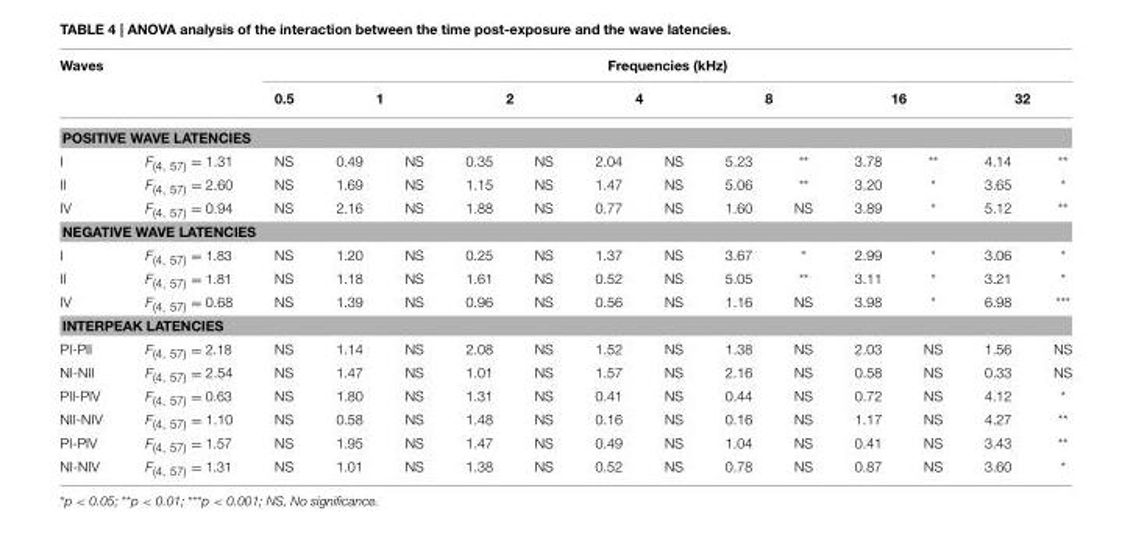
<table><thead><tr><td rowspan="2">Waves</td><td rowspan="2"></td><td colspan="13">Frequencies (kHz)</td></tr><tr><td>0.5</td><td colspan="2">1</td><td colspan="2">2</td><td colspan="2">4</td><td colspan="2">8</td><td colspan="2">16</td><td colspan="2">32</td></tr><tr><td colspan="15">POSITIVE WAVE LATENCIES</td></tr><tr><td>I</td><td>F<sub>(4, 57)</sub> = 1.31</td><td>NS</td><td>0.49</td><td>NS</td><td>0.35</td><td>NS</td><td>2.04</td><td>NS</td><td>5.23</td><td>**</td><td>3.78</td><td>**</td><td>4.14</td><td>**</td></tr></thead><tbody><tr><td>II</td><td>F<sub>(4, 57)</sub> = 2.60</td><td>NS</td><td>1.69</td><td>NS</td><td>1.15</td><td>NS</td><td>1.47</td><td>NS</td><td>5.06</td><td>**</td><td>3.20</td><td>*</td><td>3.65</td><td>*</td></tr><tr><td>IV</td><td>F<sub>(4, 57)</sub> = 0.94</td><td>NS</td><td>2.16</td><td>NS</td><td>1.88</td><td>NS</td><td>0.77</td><td>NS</td><td>1.60</td><td>NS</td><td>3.89</td><td>*</td><td>5.12</td><td>**</td></tr><tr><td colspan="15">NEGATIVE WAVE LATENCIES</td></tr><tr><td>I</td><td>F<sub>(4, 57)</sub> = 1.83</td><td>NS</td><td>1.20</td><td>NS</td><td>0.25</td><td>NS</td><td>1.37</td><td>NS</td><td>3.67</td><td>*</td><td>2.99</td><td>*</td><td>3.06</td><td>*</td></tr><tr><td>II</td><td>F<sub>(4, 57)</sub> = 1.81</td><td>NS</td><td>1.18</td><td>NS</td><td>1.61</td><td>NS</td><td>0.52</td><td>NS</td><td>5.05</td><td>**</td><td>3.11</td><td>*</td><td>3.21</td><td>*</td></tr><tr><td>IV</td><td>F<sub>(4, 57)</sub> = 0.68</td><td>NS</td><td>1.39</td><td>NS</td><td>0.96</td><td>NS</td><td>0.56</td><td>NS</td><td>1.16</td><td>NS</td><td>3.98</td><td>*</td><td>6.98</td><td>***</td></tr><tr><td colspan="15">INTERPEAK LATENCIES</td></tr><tr><td>PI-PII</td><td>F<sub>(4, 57)</sub> = 2.18</td><td>NS</td><td>1.14</td><td>NS</td><td>2.08</td><td>NS</td><td>1.52</td><td>NS</td><td>1.38</td><td>NS</td><td>2.03</td><td>NS</td><td>1.56</td><td>NS</td></tr><tr><td>NI-NII</td><td>F<sub>(4, 57)</sub> = 2.54</td><td>NS</td><td>1.47</td><td>NS</td><td>1.01</td><td>NS</td><td>1.57</td><td>NS</td><td>2.16</td><td>NS</td><td>0.58</td><td>NS</td><td>0.33</td><td>NS</td></tr><tr><td>PII-PIV</td><td>F<sub>(4, 57)</sub> = 0.63</td><td>NS</td><td>1.80</td><td>NS</td><td>1.31</td><td>NS</td><td>0.41</td><td>NS</td><td>0.44</td><td>NS</td><td>0.72</td><td>NS</td><td>4.12</td><td>*</td></tr><tr><td>NII-NIV</td><td>F<sub>(4, 57)</sub> = 1.10</td><td>NS</td><td>0.58</td><td>NS</td><td>1.48</td><td>NS</td><td>0.16</td><td>NS</td><td>0.16</td><td>NS</td><td>1.17</td><td>NS</td><td>4.27</td><td>**</td></tr><tr><td>PI-PIV</td><td>F<sub>(4, 57)</sub> = 1.57</td><td>NS</td><td>1.95</td><td>NS</td><td>1.47</td><td>NS</td><td>0.49</td><td>NS</td><td>1.04</td><td>NS</td><td>0.41</td><td>NS</td><td>3.43</td><td>**</td></tr><tr><td>NI-NIV</td><td>F<sub>(4, 57)</sub> = 1.31</td><td>NS</td><td>1.01</td><td>NS</td><td>1.38</td><td>NS</td><td>0.52</td><td>NS</td><td>0.78</td><td>NS</td><td>0.87</td><td>NS</td><td>3.60</td><td>*</td></tr></tbody></table>